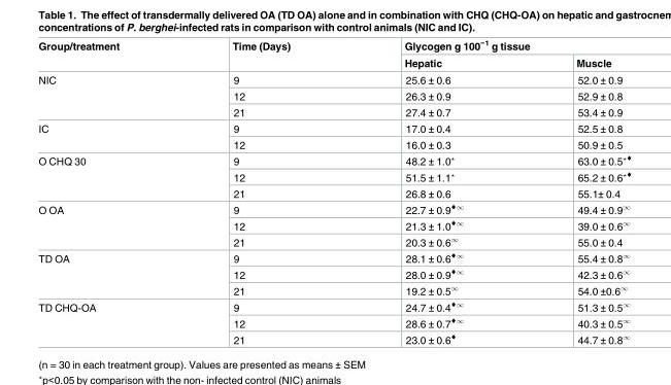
<table><thead><tr><td rowspan="2">Group/treatment</td><td rowspan="2">Time (Days)</td><td colspan="2">Glycogen g 100<sup>−1</sup> g tissue</td></tr><tr><td>Hepatic</td><td>Muscle</td></tr></thead><tbody><tr><td rowspan="3">NIC</td><td>9</td><td>25.6 ± 0.6</td><td>52.0 ± 0.9</td></tr><tr><td>12</td><td>26.3 ± 0.9</td><td>52.9 ± 0.8</td></tr><tr><td>21</td><td>27.4 ± 0.7</td><td>53.4 ± 0.9</td></tr><tr><td rowspan="2">IC</td><td>9</td><td>17.0 ± 0.4</td><td>52.5 ± 0.8</td></tr><tr><td>12</td><td>16.0 ± 0.3</td><td>50.9 ± 0.5</td></tr><tr><td rowspan="3">O CHQ 30</td><td>9</td><td>48.2 ± 1.0<sup>⋆</sup></td><td>63.0 ± 0.5<sup>⋆♦</sup></td></tr><tr><td>12</td><td>51.5 ± 1.1<sup>⋆</sup></td><td>65.2 ± 0.6<sup>⋆♦</sup></td></tr><tr><td>21</td><td>26.8 ± 0.6</td><td>55.1± 0.4</td></tr><tr><td rowspan="3">O OA</td><td>9</td><td>22.7 ± 0.9<sup>♦∞</sup></td><td>49.4 ± 0.9<sup>∞</sup></td></tr><tr><td>12</td><td>21.3 ± 1.0<sup>♦∞</sup></td><td>39.0 ± 0.6<sup>∞</sup></td></tr><tr><td>21</td><td>20.3 ± 0.6<sup>∞</sup></td><td>55.0 ± 0.4</td></tr><tr><td rowspan="3">TD OA</td><td>9</td><td>28.1 ± 0.6<sup>♦∞</sup></td><td>55.4 ± 0.8<sup>∞</sup></td></tr><tr><td>12</td><td>28.0 ± 0.9<sup>♦∞</sup></td><td>42.3 ± 0.6<sup>∞</sup></td></tr><tr><td>21</td><td>19.2 ± 0.5<sup>∞</sup></td><td>54.0 ±0.6<sup>∞</sup></td></tr><tr><td rowspan="3">TD CHQ-OA</td><td>9</td><td>24.7 ± 0.4<sup>♦∞</sup></td><td>51.3 ± 0.5<sup>∞</sup></td></tr><tr><td>12</td><td>28.6 ± 0.7<sup>♦∞</sup></td><td>40.3 ± 0.5<sup>∞</sup></td></tr><tr><td>21</td><td>23.0 ± 0.6<sup>♦</sup></td><td>44.7 ± 0.8<sup>∞</sup></td></tr></tbody></table>